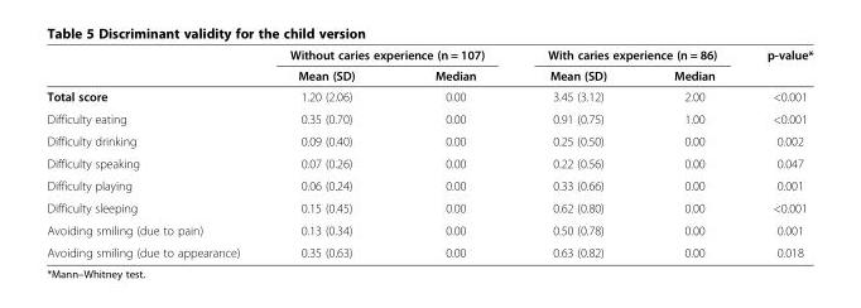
<table><thead><tr><td rowspan="2"></td><td colspan="2">Without caries experience (n = 107)</td><td colspan="2">With caries experience (n = 86)</td><td rowspan="2">p-value*</td></tr><tr><td>Mean (SD)</td><td>Median</td><td>Mean (SD)</td><td>Median</td></tr></thead><tbody><tr><td>Total score</td><td>1.20 (2.06)</td><td>0.00</td><td>3.45 (3.12)</td><td>2.00</td><td>&lt;0.001</td></tr><tr><td>Difficulty eating</td><td>0.35 (0.70)</td><td>0.00</td><td>0.91 (0.75)</td><td>1.00</td><td>&lt;0.001</td></tr><tr><td>Difficulty drinking</td><td>0.09 (0.40)</td><td>0.00</td><td>0.25 (0.50)</td><td>0.00</td><td>0.002</td></tr><tr><td>Difficulty speaking</td><td>0.07 (0.26)</td><td>0.00</td><td>0.22 (0.56)</td><td>0.00</td><td>0.047</td></tr><tr><td>Difficulty playing</td><td>0.06 (0.24)</td><td>0.00</td><td>0.33 (0.66)</td><td>0.00</td><td>0.001</td></tr><tr><td>Difficulty sleeping</td><td>0.15 (0.45)</td><td>0.00</td><td>0.62 (0.80)</td><td>0.00</td><td>&lt;0.001</td></tr><tr><td>Avoiding smiling (due to pain)</td><td>0.13 (0.34)</td><td>0.00</td><td>0.50 (0.78)</td><td>0.00</td><td>0.001</td></tr><tr><td>Avoiding smiling (due to appearance)</td><td>0.35 (0.63)</td><td>0.00</td><td>0.63 (0.82)</td><td>0.00</td><td>0.018</td></tr></tbody></table>